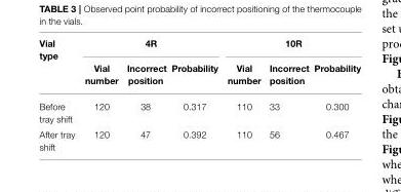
<table><thead><tr><td rowspan="2">Vial type</td><td colspan="3">4R</td><td colspan="3">10R</td></tr><tr><td>Vial number</td><td>Incorrect position</td><td>Probability</td><td>Vial number</td><td>Incorrect position</td><td>Probability</td></tr></thead><tbody><tr><td>Before tray shift</td><td>120</td><td>38</td><td>0.317</td><td>110</td><td>33</td><td>0.300</td></tr><tr><td>After tray shift</td><td>120</td><td>47</td><td>0.392</td><td>110</td><td>56</td><td>0.467</td></tr></tbody></table>